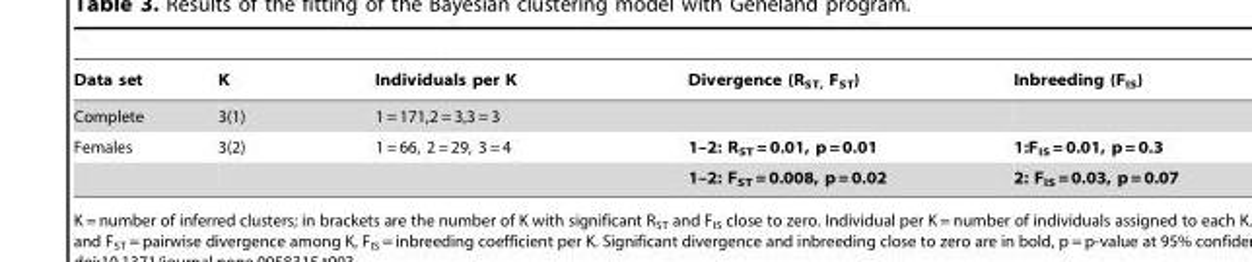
<table><thead><tr><td>Data set</td><td>K</td><td>Individuals per K</td><td>Divergence (R<sub>ST,</sub> F<sub>ST</sub>)</td><td>Inbreeding (F<sub>IS</sub>)</td></tr></thead><tbody><tr><td>Complete</td><td>3(1)</td><td>1 = 171,2 = 3,3 = 3</td><td></td><td></td></tr><tr><td rowspan="2">Females</td><td>3(2)</td><td>1 = 66, 2 = 29, 3 = 4</td><td>1–2: R<sub>ST</sub> = 0.01, p = 0.01</td><td>1:F<sub>IS</sub> = 0.01, p = 0.3</td></tr><tr><td></td><td></td><td>1–2: F<sub>ST</sub> = 0.008, p = 0.02</td><td>2: F<sub>IS</sub> = 0.03, p = 0.07</td></tr></tbody></table>